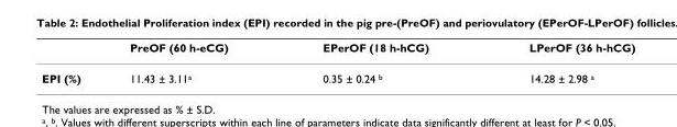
<table><thead><tr><td></td><td>PreOF (60 h-eCG)</td><td>EPerOF (18 h-hCG)</td><td>LPerOF (36 h-hCG)</td></tr></thead><tbody><tr><td>EPI (%)</td><td>11.43 ± 3.11<sup>a</sup></td><td>0.35 ± 0.24 <sup>b</sup></td><td>14.28 ± 2.98 <sup>a</sup></td></tr></tbody></table>